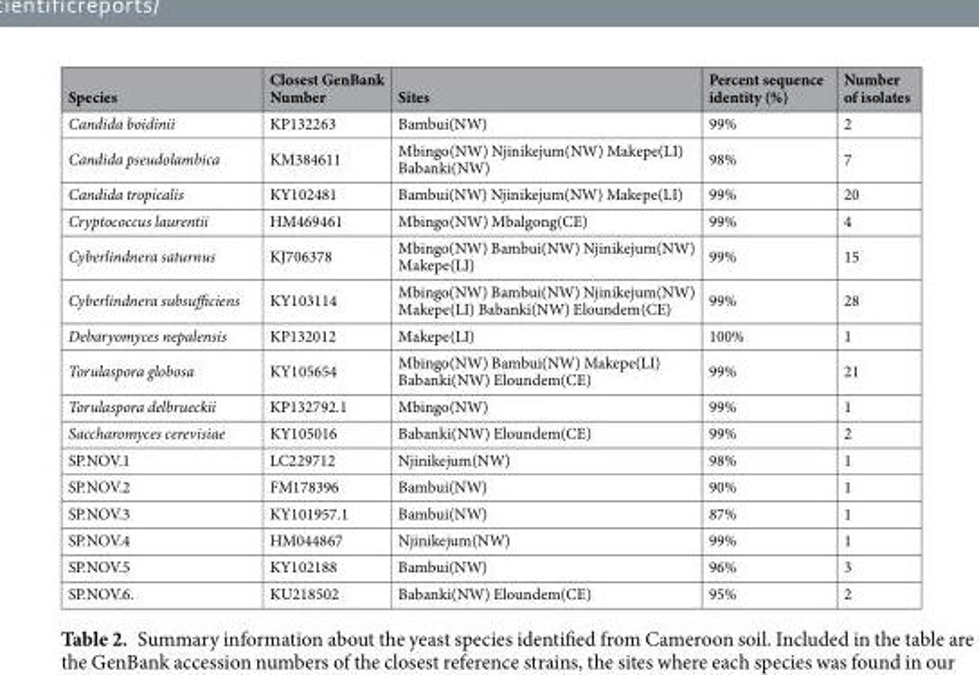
<table><thead><tr><td>Species</td><td>Closest GenBank Number</td><td>Sites</td><td>Percent sequence identity (%)</td><td>Number of isolates</td></tr></thead><tbody><tr><td>Candida boidinii</td><td>KP132263</td><td>Bambui(NW)</td><td>99%</td><td>2</td></tr><tr><td>Candida pseudolambica</td><td>KM384611</td><td>Mbingo(NW) Njinikejum(NW) Makepe(LI) Babanki(NW)</td><td>98%</td><td>7</td></tr><tr><td>Candida tropicalis</td><td>KY102481</td><td>Bambui(NW) Njinikejum(NW) Makepe(LI)</td><td>99%</td><td>20</td></tr><tr><td>Cryptococcus laurentii</td><td>HM469461</td><td>Mbingo(NW) Mbalgong(CE)</td><td>99%</td><td>4</td></tr><tr><td>Cyberlindnera saturnus</td><td>KJ706378</td><td>Mbingo(NW) Bambui(NW) Njinikejum(NW) Makepe(LI)</td><td>99%</td><td>15</td></tr><tr><td>Cyberlindnera subsufficiens</td><td>KY103114</td><td>Mbingo(NW) Bambui(NW) Njinikejum(NW) Makepe(LI) Babanki(NW) Eloundem(CE)</td><td>99%</td><td>28</td></tr><tr><td>Debaryomyces nepalensis</td><td>KP132012</td><td>Makepe(LI)</td><td>100%</td><td>1</td></tr><tr><td>Torulaspora globosa</td><td>KY105654</td><td>Mbingo(NW) Bambui(NW) Makepe(LI) Babanki(NW) Eloundem(CE)</td><td>99%</td><td>21</td></tr><tr><td>Torulaspora delbrueckii</td><td>KP132792.1</td><td>Mbingo(NW)</td><td>99%</td><td>1</td></tr><tr><td>Saccharomyces cerevisiae</td><td>KY105016</td><td>Babanki(NW) Eloundem(CE)</td><td>99%</td><td>2</td></tr><tr><td>SP.NOV.1</td><td>LC229712</td><td>Njinikejum(NW)</td><td>98%</td><td>1</td></tr><tr><td>SP.NOV.2</td><td>FM178396</td><td>Bambui(NW)</td><td>90%</td><td>1</td></tr><tr><td>SP.NOV.3</td><td>KY101957.1</td><td>Bambui(NW)</td><td>87%</td><td>1</td></tr><tr><td>SP.NOV.4</td><td>HM044867</td><td>Njinikejum(NW)</td><td>99%</td><td>1</td></tr><tr><td>SP.NOV.5</td><td>KY102188</td><td>Bambui(NW)</td><td>96%</td><td>3</td></tr><tr><td>SP.NOV.6.</td><td>KU218502</td><td>Babanki(NW) Eloundem(CE)</td><td>95%</td><td>2</td></tr></tbody></table>